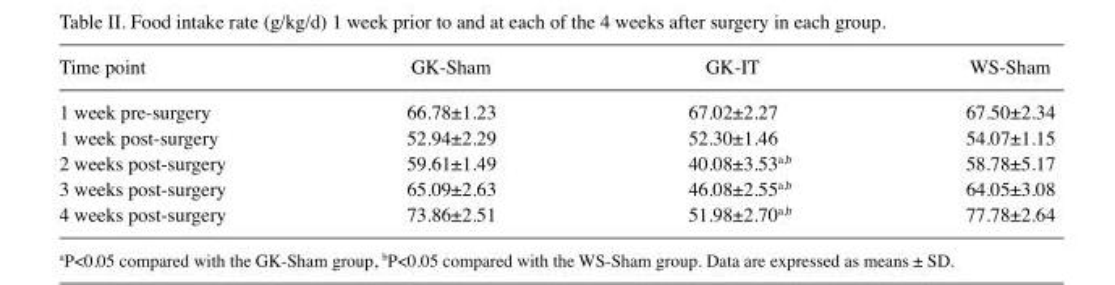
<table><thead><tr><td>Time point</td><td>GK-Sham</td><td>GK-IT</td><td>WS-Sham</td></tr></thead><tbody><tr><td>1 week pre-surgery</td><td>66.78±1.23</td><td>67.02±2.27</td><td>67.50±2.34</td></tr><tr><td>1 week post-surgery</td><td>52.94±2.29</td><td>52.30±1.46</td><td>54.07±1.15</td></tr><tr><td>2 weeks post-surgery</td><td>59.61±1.49</td><td>40.08±3.53<sup>a,b</sup></td><td>58.78±5.17</td></tr><tr><td>3 weeks post-surgery</td><td>65.09±2.63</td><td>46.08±2.55<sup>a,b</sup></td><td>64.05±3.08</td></tr><tr><td>4 weeks post-surgery</td><td>73.86±2.51</td><td>51.98±2.70<sup>a,b</sup></td><td>77.78±2.64</td></tr></tbody></table>